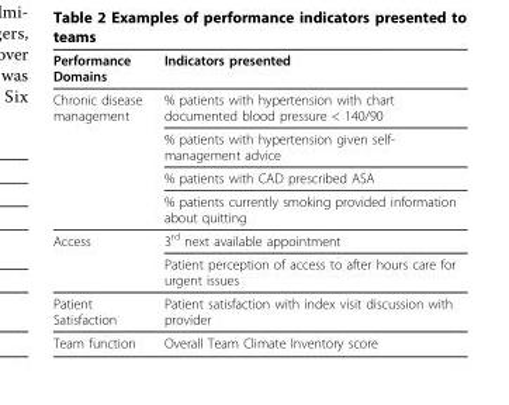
<table><thead><tr><td>Performance Domains</td><td>Indicators presented</td></tr></thead><tbody><tr><td rowspan="4">Chronic disease management</td><td>% patients with hypertension with chart documented blood pressure &lt; 140/90</td></tr><tr><td>% patients with hypertension given self- management advice</td></tr><tr><td>% patients with CAD prescribed ASA</td></tr><tr><td>% patients currently smoking provided information about quitting</td></tr><tr><td rowspan="2">Access</td><td>3<sup>rd</sup> next available appointment</td></tr><tr><td>Patient perception of access to after hours care for urgent issues</td></tr><tr><td>Patient Satisfaction</td><td>Patient satisfaction with index visit discussion with provider</td></tr><tr><td>Team function</td><td>Overall Team Climate Inventory score</td></tr></tbody></table>